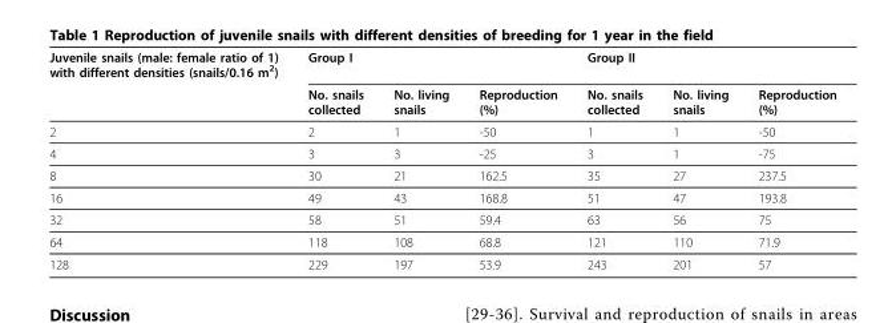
<table><thead><tr><td rowspan="2">Juvenile snails (male: female ratio of 1) with different densities (snails/0.16 m<sup>2</sup>)</td><td colspan="3">Group I</td><td colspan="3">Group II</td></tr><tr><td>No. snails collected</td><td>No. living snails</td><td>Reproduction (%)</td><td>No. snails collected</td><td>No. living snails</td><td>Reproduction (%)</td></tr></thead><tbody><tr><td>2</td><td>2</td><td>1</td><td>-50</td><td>1</td><td>1</td><td>-50</td></tr><tr><td>4</td><td>3</td><td>3</td><td>-25</td><td>3</td><td>1</td><td>-75</td></tr><tr><td>8</td><td>30</td><td>21</td><td>162.5</td><td>35</td><td>27</td><td>237.5</td></tr><tr><td>16</td><td>49</td><td>43</td><td>168.8</td><td>51</td><td>47</td><td>193.8</td></tr><tr><td>32</td><td>58</td><td>51</td><td>59.4</td><td>63</td><td>56</td><td>75</td></tr><tr><td>64</td><td>118</td><td>108</td><td>68.8</td><td>121</td><td>110</td><td>71.9</td></tr><tr><td>128</td><td>229</td><td>197</td><td>53.9</td><td>243</td><td>201</td><td>57</td></tr></tbody></table>